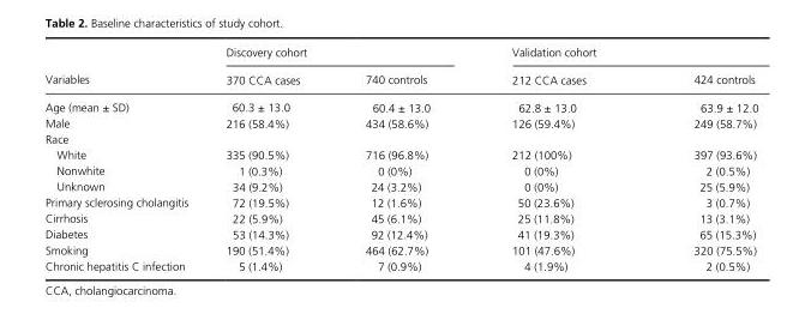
<table><thead><tr><td rowspan="2">Variables</td><td colspan="2">Discovery cohort</td><td colspan="2">Validation cohort</td></tr><tr><td>370 CCA cases</td><td>740 controls</td><td>212 CCA cases</td><td>424 controls</td></tr></thead><tbody><tr><td>Age (mean ± SD)</td><td>60.3 ± 13.0</td><td>60.4 ± 13.0</td><td>62.8 ± 13.0</td><td>63.9 ± 12.0</td></tr><tr><td>Male</td><td>216 (58.4%)</td><td>434 (58.6%)</td><td>126 (59.4%)</td><td>249 (58.7%)</td></tr><tr><td colspan="5">Race</td></tr><tr><td>White</td><td>335 (90.5%)</td><td>716 (96.8%)</td><td>212 (100%)</td><td>397 (93.6%)</td></tr><tr><td>Nonwhite</td><td>1 (0.3%)</td><td>0 (0%)</td><td>0 (0%)</td><td>2 (0.5%)</td></tr><tr><td>Unknown</td><td>34 (9.2%)</td><td>24 (3.2%)</td><td>0 (0%)</td><td>25 (5.9%)</td></tr><tr><td>Primary sclerosing cholangitis</td><td>72 (19.5%)</td><td>12 (1.6%)</td><td>50 (23.6%)</td><td>3 (0.7%)</td></tr><tr><td>Cirrhosis</td><td>22 (5.9%)</td><td>45 (6.1%)</td><td>25 (11.8%)</td><td>13 (3.1%)</td></tr><tr><td>Diabetes</td><td>53 (14.3%)</td><td>92 (12.4%)</td><td>41 (19.3%)</td><td>65 (15.3%)</td></tr><tr><td>Smoking</td><td>190 (51.4%)</td><td>464 (62.7%)</td><td>101 (47.6%)</td><td>320 (75.5%)</td></tr><tr><td>Chronic hepatitis C infection</td><td>5 (1.4%)</td><td>7 (0.9%)</td><td>4 (1.9%)</td><td>2 (0.5%)</td></tr></tbody></table>